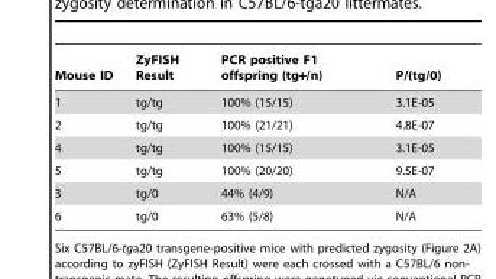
<table><thead><tr><td>Mouse ID</td><td>ZyFISH Result</td><td>PCR positive F1 offspring (tg+/n)</td><td>P/(tg/0)</td></tr></thead><tbody><tr><td>1</td><td>tg/tg</td><td>100% (15/15)</td><td>3.1E-05</td></tr><tr><td>2</td><td>tg/tg</td><td>100% (21/21)</td><td>4.8E-07</td></tr><tr><td>4</td><td>tg/tg</td><td>100% (15/15)</td><td>3.1E-05</td></tr><tr><td>5</td><td>tg/tg</td><td>100% (20/20)</td><td>9.5E-07</td></tr><tr><td>3</td><td>tg/0</td><td>44% (4/9)</td><td>N/A</td></tr><tr><td>6</td><td>tg/0</td><td>63% (5/8)</td><td>N/A</td></tr></tbody></table>